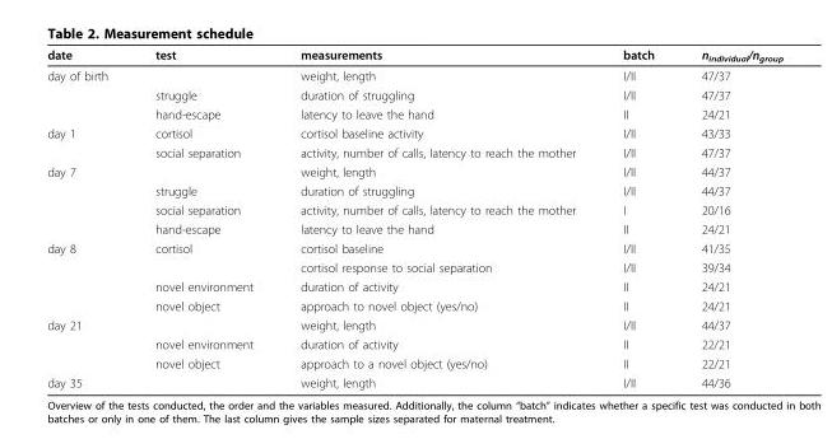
<table><tbody><tr><td>date</td><td>test</td><td>measurements</td><td>batch</td><td>n<sub>individual</sub>/n<sub>group</sub></td></tr><tr><td rowspan="3">day of birth</td><td></td><td>weight, length</td><td>I/II</td><td>47/37</td></tr><tr><td>struggle</td><td>duration of struggling</td><td>I/II</td><td>47/37</td></tr><tr><td>hand-escape</td><td>latency to leave the hand</td><td>II</td><td>24/21</td></tr><tr><td rowspan="2">day 1</td><td>cortisol</td><td>cortisol baseline activity</td><td>I/II</td><td>43/33</td></tr><tr><td>social separation</td><td>activity, number of calls, latency to reach the mother</td><td>I/II</td><td>47/37</td></tr><tr><td rowspan="4">day 7</td><td></td><td>weight, length</td><td>I/II</td><td>44/37</td></tr><tr><td>struggle</td><td>duration of struggling</td><td>I/II</td><td>44/37</td></tr><tr><td>social separation</td><td>activity, number of calls, latency to reach the mother</td><td>I</td><td>20/16</td></tr><tr><td>hand-escape</td><td>latency to leave the hand</td><td>II</td><td>24/21</td></tr><tr><td rowspan="4">day 8</td><td>cortisol</td><td>cortisol baseline</td><td>I/II</td><td>41/35</td></tr><tr><td></td><td>cortisol response to social separation</td><td>I/II</td><td>39/34</td></tr><tr><td>novel environment</td><td>duration of activity</td><td>II</td><td>24/21</td></tr><tr><td>novel object</td><td>approach to novel object (yes/no)</td><td>II</td><td>24/21</td></tr><tr><td rowspan="3">day 21</td><td></td><td>weight, length</td><td>I/II</td><td>44/37</td></tr><tr><td>novel environment</td><td>duration of activity</td><td>II</td><td>22/21</td></tr><tr><td>novel object</td><td>approach to a novel object (yes/no)</td><td>II</td><td>22/21</td></tr><tr><td>day 35</td><td></td><td>weight, length</td><td>I/II</td><td>44/36</td></tr></tbody></table>